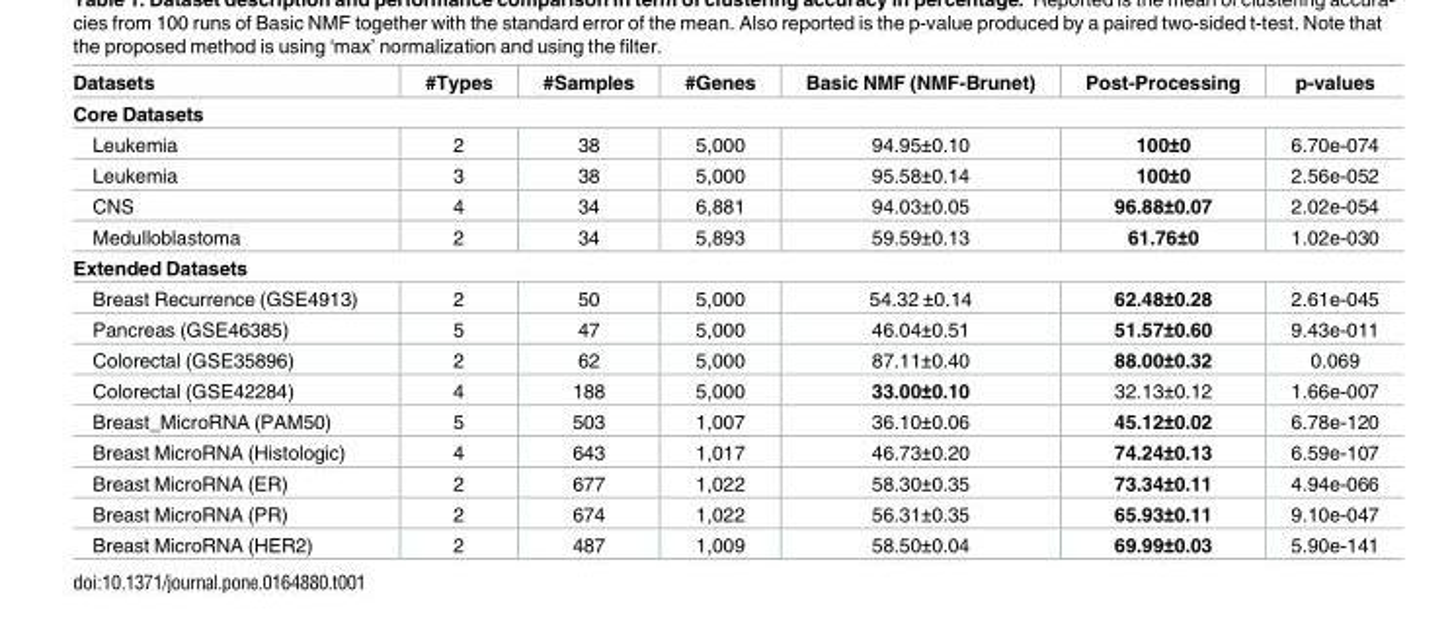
<table><thead><tr><td>Datasets</td><td>#Types</td><td>#Samples</td><td>#Genes</td><td>Basic NMF (NMF-Brunet)</td><td>Post-Processing</td><td>p-values</td></tr></thead><tbody><tr><td colspan="7">Core Datasets</td></tr><tr><td>Leukemia</td><td>2</td><td>38</td><td>5,000</td><td>94.95±0.10</td><td>100±0</td><td>6.70e-074</td></tr><tr><td>Leukemia</td><td>3</td><td>38</td><td>5,000</td><td>95.58±0.14</td><td>100±0</td><td>2.56e-052</td></tr><tr><td>CNS</td><td>4</td><td>34</td><td>6,881</td><td>94.03±0.05</td><td>96.88±0.07</td><td>2.02e-054</td></tr><tr><td>Medulloblastoma</td><td>2</td><td>34</td><td>5,893</td><td>59.59±0.13</td><td>61.76±0</td><td>1.02e-030</td></tr><tr><td colspan="7">Extended Datasets</td></tr><tr><td>Breast Recurrence (GSE4913)</td><td>2</td><td>50</td><td>5,000</td><td>54.32 ±0.14</td><td>62.48±0.28</td><td>2.61e-045</td></tr><tr><td>Pancreas (GSE46385)</td><td>5</td><td>47</td><td>5,000</td><td>46.04±0.51</td><td>51.57±0.60</td><td>9.43e-011</td></tr><tr><td>Colorectal (GSE35896)</td><td>2</td><td>62</td><td>5,000</td><td>87.11±0.40</td><td>88.00±0.32</td><td>0.069</td></tr><tr><td>Colorectal (GSE42284)</td><td>4</td><td>188</td><td>5,000</td><td>33.00±0.10</td><td>32.13±0.12</td><td>1.66e-007</td></tr><tr><td>Breast_MicroRNA (PAM50)</td><td>5</td><td>503</td><td>1,007</td><td>36.10±0.06</td><td>45.12±0.02</td><td>6.78e-120</td></tr><tr><td>Breast MicroRNA (Histologic)</td><td>4</td><td>643</td><td>1,017</td><td>46.73±0.20</td><td>74.24±0.13</td><td>6.59e-107</td></tr><tr><td>Breast MicroRNA (ER)</td><td>2</td><td>677</td><td>1,022</td><td>58.30±0.35</td><td>73.34±0.11</td><td>4.94e-066</td></tr><tr><td>Breast MicroRNA (PR)</td><td>2</td><td>674</td><td>1,022</td><td>56.31±0.35</td><td>65.93±0.11</td><td>9.10e-047</td></tr><tr><td>Breast MicroRNA (HER2)</td><td>2</td><td>487</td><td>1,009</td><td>58.50±0.04</td><td>69.99±0.03</td><td>5.90e-141</td></tr></tbody></table>